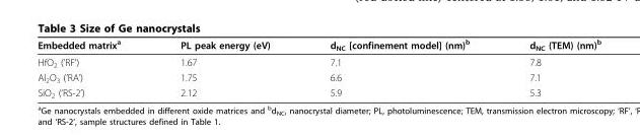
<table><thead><tr><td>Embedded matrix<sup>a</sup></td><td>PL peak energy (eV)</td><td>d<sub>NC</sub> [confinement model] (nm)<sup>b</sup></td><td>d<sub>NC</sub> (TEM) (nm)<sup>b</sup></td></tr></thead><tbody><tr><td>HfO<sub>2</sub> (’RF’)</td><td>1.67</td><td>7.1</td><td>7.8</td></tr><tr><td>Al<sub>2</sub>O<sub>3</sub> (’RA’)</td><td>1.75</td><td>6.6</td><td>7.1</td></tr><tr><td>SiO<sub>2</sub> (’RS-2’)</td><td>2.12</td><td>5.9</td><td>5.3</td></tr></tbody></table>